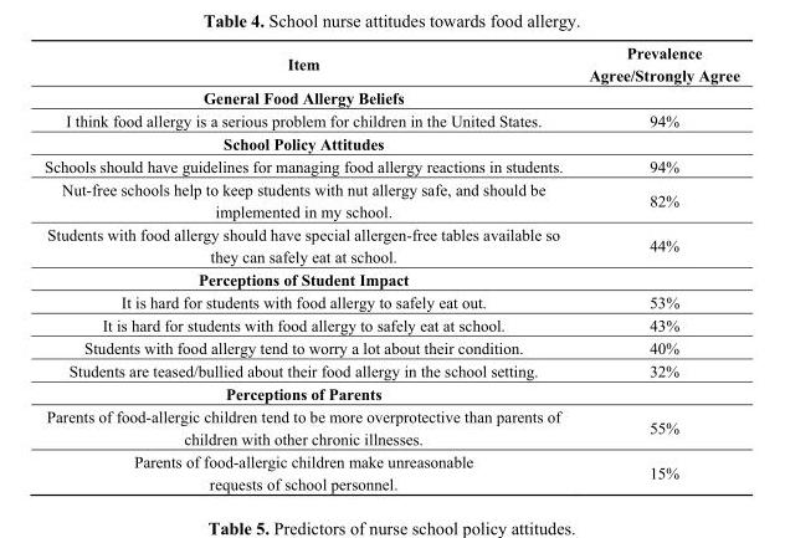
<table><thead><tr><td>Item</td><td>Prevalence Agree/Strongly Agree</td></tr></thead><tbody><tr><td colspan="2">General Food Allergy Beliefs</td></tr><tr><td>I think food allergy is a serious problem for children in the United States.</td><td>94%</td></tr><tr><td colspan="2">School Policy Attitudes</td></tr><tr><td>Schools should have guidelines for managing food allergy reactions in students.</td><td>94%</td></tr><tr><td>Nut-free schools help to keep students with nut allergy safe, and should be implemented in my school.</td><td>82%</td></tr><tr><td>Students with food allergy should have special allergen-free tables available so they can safely eat at school.</td><td>44%</td></tr><tr><td colspan="2">Perceptions of Student Impact</td></tr><tr><td>It is hard for students with food allergy to safely eat out.</td><td>53%</td></tr><tr><td>It is hard for students with food allergy to safely eat at school.</td><td>43%</td></tr><tr><td>Students with food allergy tend to worry a lot about their condition.</td><td>40%</td></tr><tr><td>Students are teased/bullied about their food allergy in the school setting.</td><td>32%</td></tr><tr><td colspan="2">Perceptions of Parents</td></tr><tr><td>Parents of food-allergic children tend to be more overprotective than parents of children with other chronic illnesses.</td><td>55%</td></tr><tr><td>Parents of food-allergic children make unreasonable requests of school personnel.</td><td>15%</td></tr></tbody></table>